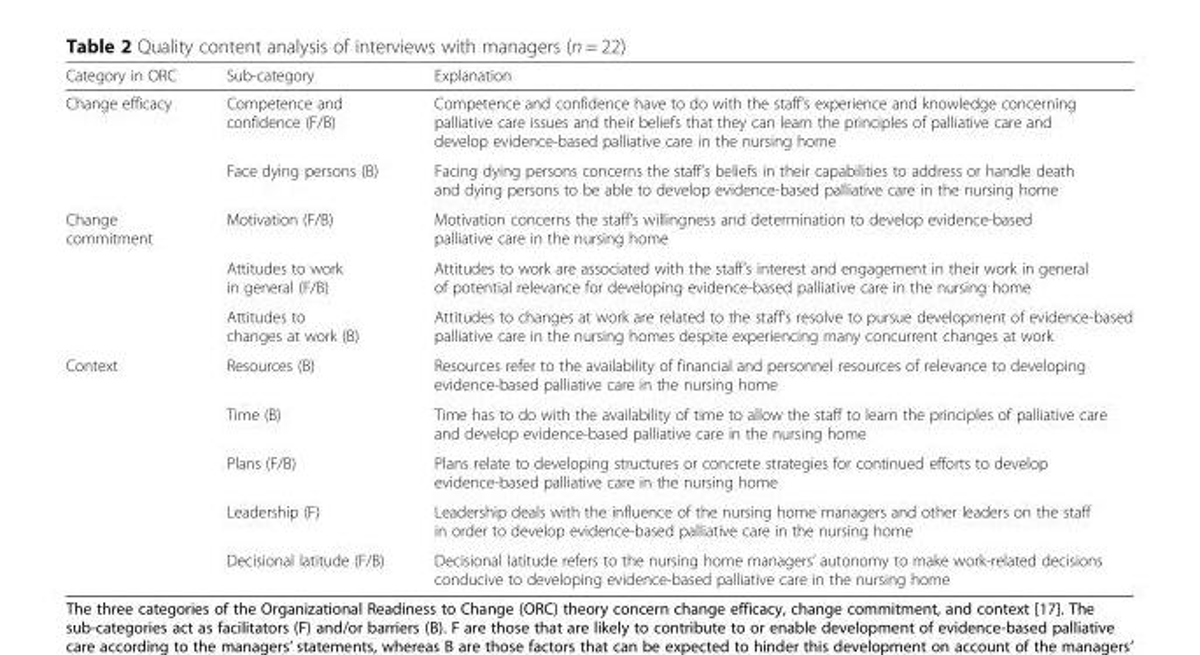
<table><thead><tr><td>Category in ORC</td><td>Sub-category</td><td>Explanation</td></tr></thead><tbody><tr><td rowspan="2">Change efficacy</td><td>Competence and confidence (F/B)</td><td>Competence and confidence have to do with the staff’s experience and knowledge concerning palliative care issues and their beliefs that they can learn the principles of palliative care and develop evidence-based palliative care in the nursing home</td></tr><tr><td>Face dying persons (B)</td><td>Facing dying persons concerns the staff’s beliefs in their capabilities to address or handle death and dying persons to be able to develop evidence-based palliative care in the nursing home</td></tr><tr><td rowspan="3">Change commitment</td><td>Motivation (F/B)</td><td>Motivation concerns the staff’s willingness and determination to develop evidence-based palliative care in the nursing home</td></tr><tr><td>Attitudes to work in general (F/B)</td><td>Attitudes to work are associated with the staff’s interest and engagement in their work in general of potential relevance for developing evidence-based palliative care in the nursing home</td></tr><tr><td>Attitudes to changes at work (B)</td><td>Attitudes to changes at work are related to the staff’s resolve to pursue development of evidence-based palliative care in the nursing homes despite experiencing many concurrent changes at work</td></tr><tr><td rowspan="5">Context</td><td>Resources (B)</td><td>Resources refer to the availability of financial and personnel resources of relevance to developing evidence-based palliative care in the nursing home</td></tr><tr><td>Time (B)</td><td>Time has to do with the availability of time to allow the staff to learn the principles of palliative care and develop evidence-based palliative care in the nursing home</td></tr><tr><td>Plans (F/B)</td><td>Plans relate to developing structures or concrete strategies for continued efforts to develop evidence-based palliative care in the nursing home</td></tr><tr><td>Leadership (F)</td><td>Leadership deals with the influence of the nursing home managers and other leaders on the staff in order to develop evidence-based palliative care in the nursing home</td></tr><tr><td>Decisional latitude (F/B)</td><td>Decisional latitude refers to the nursing home managers’ autonomy to make work-related decisions conducive to developing evidence-based palliative care in the nursing home</td></tr></tbody></table>